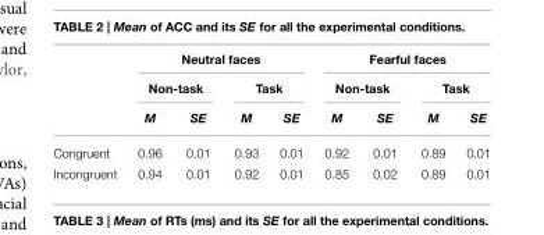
<table><thead><tr><td rowspan="3"></td><td colspan="4">Neutral faces</td><td colspan="4">Fearful faces</td></tr><tr><td colspan="2">Non-task</td><td colspan="2">Task</td><td colspan="2">Non-task</td><td colspan="2">Task</td></tr><tr><td>M</td><td>SE</td><td>M</td><td>SE</td><td>M</td><td>SE</td><td>M</td><td>SE</td></tr></thead><tbody><tr><td>Congruent</td><td>0.96</td><td>0.01</td><td>0.93</td><td>0.01</td><td>0.92</td><td>0.01</td><td>0.89</td><td>0.01</td></tr><tr><td>Incongruent</td><td>0.94</td><td>0.01</td><td>0.92</td><td>0.01</td><td>0.85</td><td>0.02</td><td>0.89</td><td>0.01</td></tr></tbody></table>